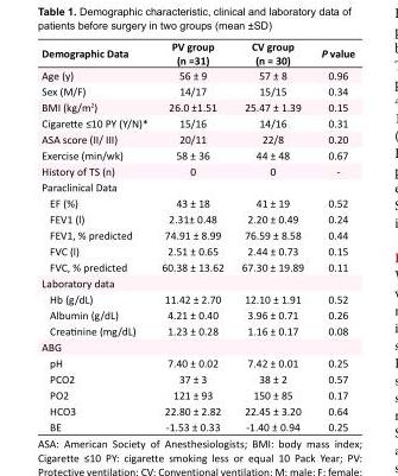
<table><tbody><tr><td>Demographic Data</td><td>PV group (n =31)</td><td>CV group (n = 30)</td><td>P value</td></tr><tr><td>Age (y)</td><td>56 ± 9</td><td>57 ± 8</td><td>0.96</td></tr><tr><td>Sex (M/F)</td><td>14/17</td><td>15/15</td><td>0.34</td></tr><tr><td>BMI (kg/m<sup>2</sup>)</td><td>26.0 ±1.51</td><td>25.47 ± 1.39</td><td>0.15</td></tr><tr><td>Cigarette ≤10 PY (Y/N)*</td><td>15/16</td><td>14/16</td><td>0.31</td></tr><tr><td>ASA score (II/ III)</td><td>20/11</td><td>22/8</td><td>0.20</td></tr><tr><td>Exercise (min/wk)</td><td>58 ± 36</td><td>44 ± 48</td><td>0.67</td></tr><tr><td>History of TS (n)</td><td>0</td><td>0</td><td>-</td></tr><tr><td colspan="4">Paraclinical Data</td></tr><tr><td>EF (%)</td><td>43 ± 18</td><td>41 ± 19</td><td>0.52</td></tr><tr><td>FEV1 (l)</td><td>2.31± 0.48</td><td>2.20 ± 0.49</td><td>0.24</td></tr><tr><td>FEV1, % predicted</td><td>74.91 ± 8.99</td><td>76.59 ± 8.58</td><td>0.44</td></tr><tr><td>FVC (l)</td><td>2.51 ± 0.65</td><td>2.44 ± 0.73</td><td>0.15</td></tr><tr><td>FVC, % predicted</td><td>60.38 ± 13.62</td><td>67.30 ± 19.89</td><td>0.11</td></tr><tr><td colspan="4">Laboratory data</td></tr><tr><td>Hb (g/dL)</td><td>11.42 ± 2.70</td><td>12.10 ± 1.91</td><td>0.52</td></tr><tr><td>Albumin (g/dL)</td><td>4.21 ± 0.40</td><td>3.96 ± 0.71</td><td>0.26</td></tr><tr><td>Creatinine (mg/dL)</td><td>1.23 ± 0.28</td><td>1.16 ± 0.17</td><td>0.08</td></tr><tr><td colspan="4">ABG</td></tr><tr><td>pH</td><td>7.40 ± 0.02</td><td>7.42 ± 0.01</td><td>0.25</td></tr><tr><td>PCO2</td><td>37 ± 3</td><td>38 ± 2</td><td>0.57</td></tr><tr><td>PO2</td><td>121 ± 93</td><td>150 ± 85</td><td>0.17</td></tr><tr><td>HCO3</td><td>22.80 ± 2.82</td><td>22.45 ± 3.20</td><td>0.64</td></tr><tr><td>BE</td><td>-1.53 ± 0.33</td><td>-1.40 ± 0.94</td><td>0.25</td></tr></tbody></table>